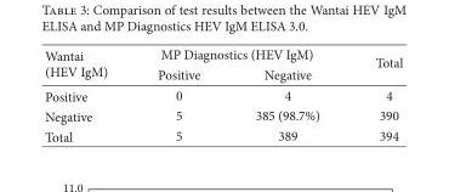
<table><thead><tr><td rowspan="2">Wantai (HEV IgM)</td><td colspan="2">MP Diagnostics (HEV IgM)</td><td rowspan="2">Total</td></tr><tr><td>Positive</td><td>Negative</td></tr></thead><tbody><tr><td>Positive</td><td>0</td><td>4</td><td>4</td></tr><tr><td>Negative</td><td>5</td><td>385 (98.7%)</td><td>390</td></tr><tr><td>Total</td><td>5</td><td>389</td><td>394</td></tr></tbody></table>